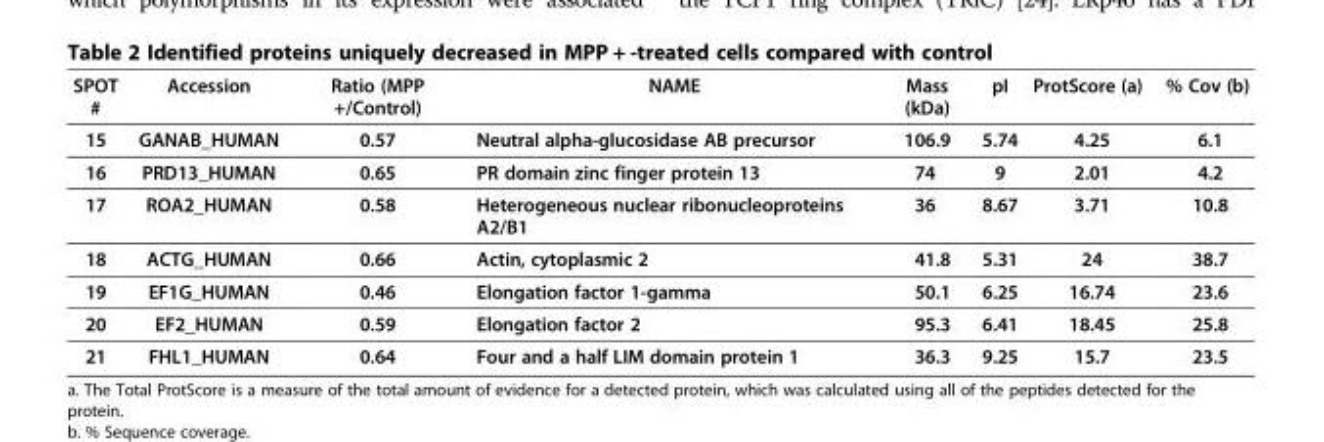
<table><thead><tr><td>SPOT #</td><td>Accession</td><td>Ratio (MPP +/Control)</td><td>NAME</td><td>Mass (kDa)</td><td>pI</td><td>ProtScore (a)</td><td>% Cov (b)</td></tr></thead><tbody><tr><td>15</td><td>GANAB_HUMAN</td><td>0.57</td><td>Neutral alpha-glucosidase AB precursor</td><td>106.9</td><td>5.74</td><td>4.25</td><td>6.1</td></tr><tr><td>16</td><td>PRD13_HUMAN</td><td>0.65</td><td>PR domain zinc finger protein 13</td><td>74</td><td>9</td><td>2.01</td><td>4.2</td></tr><tr><td>17</td><td>ROA2_HUMAN</td><td>0.58</td><td>Heterogeneous nuclear ribonucleoproteins A2/B1</td><td>36</td><td>8.67</td><td>3.71</td><td>10.8</td></tr><tr><td>18</td><td>ACTG_HUMAN</td><td>0.66</td><td>Actin, cytoplasmic 2</td><td>41.8</td><td>5.31</td><td>24</td><td>38.7</td></tr><tr><td>19</td><td>EF1G_HUMAN</td><td>0.46</td><td>Elongation factor 1-gamma</td><td>50.1</td><td>6.25</td><td>16.74</td><td>23.6</td></tr><tr><td>20</td><td>EF2_HUMAN</td><td>0.59</td><td>Elongation factor 2</td><td>95.3</td><td>6.41</td><td>18.45</td><td>25.8</td></tr><tr><td>21</td><td>FHL1_HUMAN</td><td>0.64</td><td>Four and a half LIM domain protein 1</td><td>36.3</td><td>9.25</td><td>15.7</td><td>23.5</td></tr></tbody></table>